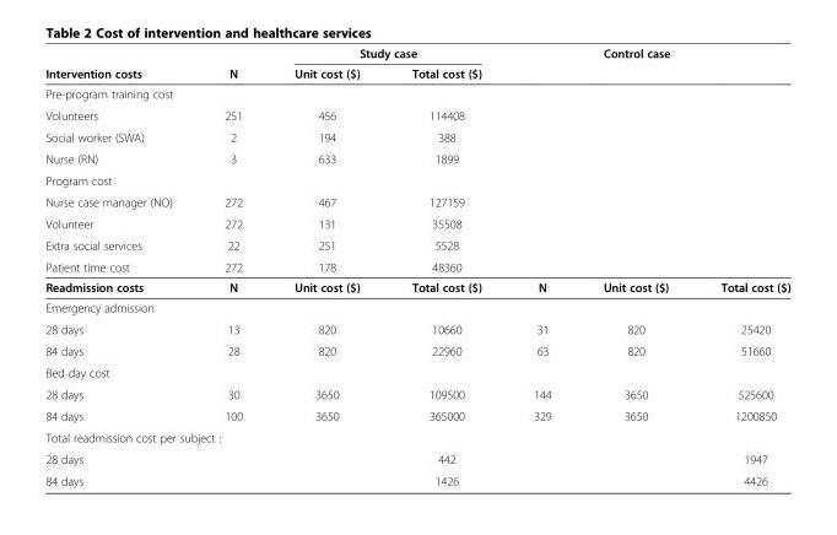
<table><thead><tr><td rowspan="2">Intervention costs</td><td rowspan="2">N</td><td colspan="2">Study case</td><td rowspan="2"></td><td colspan="2">Control case</td></tr><tr><td>Unit cost ($)</td><td>Total cost ($)</td><td></td><td></td></tr></thead><tbody><tr><td colspan="7">Pre-program training cost</td></tr><tr><td>Volunteers</td><td>251</td><td>456</td><td>114408</td><td></td><td></td><td></td></tr><tr><td>Social worker (SWA)</td><td>2</td><td>194</td><td>388</td><td></td><td></td><td></td></tr><tr><td>Nurse (RN)</td><td>3</td><td>633</td><td>1899</td><td></td><td></td><td></td></tr><tr><td colspan="7">Program cost</td></tr><tr><td>Nurse case manager (NO)</td><td>272</td><td>467</td><td>127159</td><td></td><td></td><td></td></tr><tr><td>Volunteer</td><td>272</td><td>131</td><td>35508</td><td></td><td></td><td></td></tr><tr><td>Extra social services</td><td>22</td><td>251</td><td>5528</td><td></td><td></td><td></td></tr><tr><td>Patient time cost</td><td>272</td><td>178</td><td>48360</td><td></td><td></td><td></td></tr><tr><td>Readmission costs</td><td>N</td><td>Unit cost ($)</td><td>Total cost ($)</td><td>N</td><td>Unit cost ($)</td><td>Total cost ($)</td></tr><tr><td colspan="7">Emergency admission</td></tr><tr><td>28 days</td><td>13</td><td>820</td><td>10660</td><td>31</td><td>820</td><td>25420</td></tr><tr><td>84 days</td><td>28</td><td>820</td><td>22960</td><td>63</td><td>820</td><td>51660</td></tr><tr><td colspan="7">Bed day cost</td></tr><tr><td>28 days</td><td>30</td><td>3650</td><td>109500</td><td>144</td><td>3650</td><td>525600</td></tr><tr><td>84 days</td><td>100</td><td>3650</td><td>365000</td><td>329</td><td>3650</td><td>1200850</td></tr><tr><td colspan="7">Total readmission cost per subject :</td></tr><tr><td>28 days</td><td></td><td></td><td>442</td><td></td><td></td><td>1947</td></tr><tr><td>84 days</td><td></td><td></td><td>1426</td><td></td><td></td><td>4426</td></tr></tbody></table>